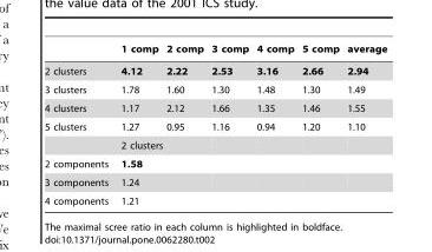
<table><thead><tr><td></td><td>1 comp</td><td>2 comp</td><td>3 comp</td><td>4 comp</td><td>5 comp</td><td>average</td></tr></thead><tbody><tr><td>2 clusters</td><td>4.12</td><td>2.22</td><td>2.53</td><td>3.16</td><td>2.66</td><td>2.94</td></tr><tr><td>3 clusters</td><td>1.78</td><td>1.60</td><td>1.30</td><td>1.48</td><td>1.30</td><td>1.49</td></tr><tr><td>4 clusters</td><td>1.17</td><td>2.12</td><td>1.66</td><td>1.35</td><td>1.46</td><td>1.55</td></tr><tr><td rowspan="2">5 clusters</td><td>1.27</td><td>0.95</td><td>1.16</td><td>0.94</td><td>1.20</td><td>1.10</td></tr><tr><td colspan="2">2 clusters</td><td></td><td></td><td></td><td></td></tr><tr><td>2 components</td><td colspan="2">1.58</td><td></td><td></td><td></td><td></td></tr><tr><td>3 components</td><td colspan="2">1.24</td><td></td><td></td><td></td><td></td></tr><tr><td>4 components</td><td colspan="2">1.21</td><td></td><td></td><td></td><td></td></tr></tbody></table>